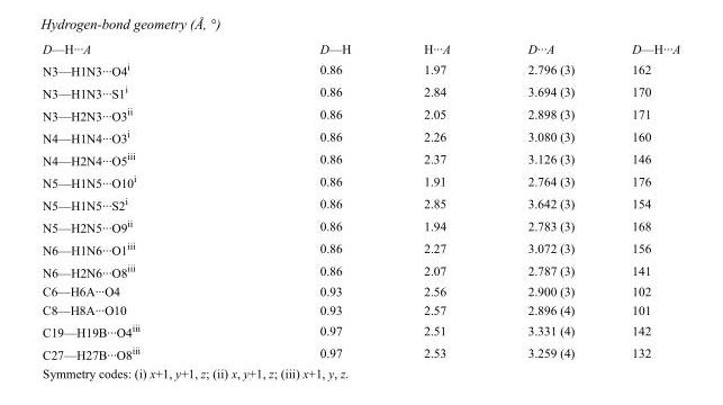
<table><tbody><tr><td>D—H···A</td><td>D—H</td><td>H···A</td><td>D···A</td><td>D—H···A</td></tr><tr><td>N3—H1N3···O4<sup>i</sup></td><td>0.86</td><td>1.97</td><td>2.796 (3)</td><td>162</td></tr><tr><td>N3—H1N3···S1<sup>i</sup></td><td>0.86</td><td>2.84</td><td>3.694 (3)</td><td>170</td></tr><tr><td>N3—H2N3···O3<sup>ii</sup></td><td>0.86</td><td>2.05</td><td>2.898 (3)</td><td>171</td></tr><tr><td>N4—H1N4···O3<sup>i</sup></td><td>0.86</td><td>2.26</td><td>3.080 (3)</td><td>160</td></tr><tr><td>N4—H2N4···O5<sup>iii</sup></td><td>0.86</td><td>2.37</td><td>3.126 (3)</td><td>146</td></tr><tr><td>N5—H1N5···O10<sup>i</sup></td><td>0.86</td><td>1.91</td><td>2.764 (3)</td><td>176</td></tr><tr><td>N5—H1N5···S2<sup>i</sup></td><td>0.86</td><td>2.85</td><td>3.642 (3)</td><td>154</td></tr><tr><td>N5—H2N5···O9<sup>ii</sup></td><td>0.86</td><td>1.94</td><td>2.783 (3)</td><td>168</td></tr><tr><td>N6—H1N6···O1<sup>iii</sup></td><td>0.86</td><td>2.27</td><td>3.072 (3)</td><td>156</td></tr><tr><td>N6—H2N6···O8<sup>iii</sup></td><td>0.86</td><td>2.07</td><td>2.787 (3)</td><td>141</td></tr><tr><td>C6—H6A···O4</td><td>0.93</td><td>2.56</td><td>2.900 (3)</td><td>102</td></tr><tr><td>C8—H8A···O10</td><td>0.93</td><td>2.57</td><td>2.896 (4)</td><td>101</td></tr><tr><td>C19—H19B···O4<sup>iii</sup></td><td>0.97</td><td>2.51</td><td>3.331 (4)</td><td>142</td></tr><tr><td>C27—H27B···O8<sup>iii</sup></td><td>0.97</td><td>2.53</td><td>3.259 (4)</td><td>132</td></tr></tbody></table>